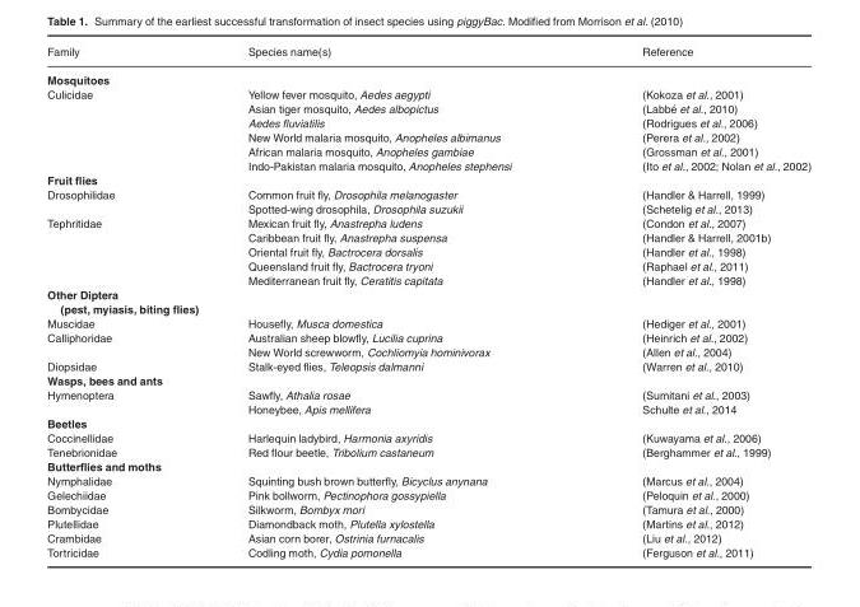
<table><thead><tr><td>Family</td><td>Species name(s)</td><td>Reference</td></tr></thead><tbody><tr><td colspan="3">Mosquitoes</td></tr><tr><td rowspan="6">Culicidae</td><td>Yellow fever mosquito, Aedes aegypti</td><td>(Kokoza et al., 2001)</td></tr><tr><td>Asian tiger mosquito, Aedes albopictus</td><td>(Labb�e et al., 2010)</td></tr><tr><td>Aedes fluviatilis</td><td>(Rodrigues et al., 2006)</td></tr><tr><td>New World malaria mosquito, Anopheles albimanus</td><td>(Perera et al., 2002)</td></tr><tr><td>African malaria mosquito, Anopheles gambiae</td><td>(Grossman et al., 2001)</td></tr><tr><td>Indo-Pakistan malaria mosquito, Anopheles stephensi</td><td>(Ito et al., 2002; Nolan et al., 2002)</td></tr><tr><td colspan="3">Fruit flies</td></tr><tr><td rowspan="2">Drosophilidae</td><td>Common fruit fly, Drosophila melanogaster</td><td>(Handler &amp; Harrell, 1999)</td></tr><tr><td>Spotted-wing drosophila, Drosophila suzukii</td><td>(Schetelig et al., 2013)</td></tr><tr><td rowspan="5">Tephritidae</td><td>Mexican fruit fly, Anastrepha ludens</td><td>(Condon et al., 2007)</td></tr><tr><td>Caribbean fruit fly, Anastrepha suspensa</td><td>(Handler &amp; Harrell, 2001b)</td></tr><tr><td>Oriental fruit fly, Bactrocera dorsalis</td><td>(Handler et al., 1998)</td></tr><tr><td>Queensland fruit fly, Bactrocera tryoni</td><td>(Raphael et al., 2011)</td></tr><tr><td>Mediterranean fruit fly, Ceratitis capitata</td><td>(Handler et al., 1998)</td></tr><tr><td colspan="3">Other Diptera (pest, myiasis, biting flies)</td></tr><tr><td>Muscidae</td><td>Housefly, Musca domestica</td><td>(Hediger et al., 2001)</td></tr><tr><td rowspan="2">Calliphoridae</td><td>Australian sheep blowfly, Lucilia cuprina</td><td>(Heinrich et al., 2002)</td></tr><tr><td>New World screwworm, Cochliomyia hominivorax</td><td>(Allen et al., 2004)</td></tr><tr><td>Diopsidae</td><td>Stalk-eyed flies, Teleopsis dalmanni</td><td>(Warren et al., 2010)</td></tr><tr><td colspan="3">Wasps, bees and ants</td></tr><tr><td rowspan="2">Hymenoptera</td><td>Sawfly, Athalia rosae</td><td>(Sumitani et al., 2003)</td></tr><tr><td>Honeybee, Apis mellifera</td><td>Schulte et al., 2014</td></tr><tr><td colspan="3">Beetles</td></tr><tr><td>Coccinellidae</td><td>Harlequin ladybird, Harmonia axyridis</td><td>(Kuwayama et al., 2006)</td></tr><tr><td>Tenebrionidae</td><td>Red flour beetle, Tribolium castaneum</td><td>(Berghammer et al., 1999)</td></tr><tr><td colspan="3">Butterflies and moths</td></tr><tr><td>Nymphalidae</td><td>Squinting bush brown butterfly, Bicyclus anynana</td><td>(Marcus et al., 2004)</td></tr><tr><td>Gelechiidae</td><td>Pink bollworm, Pectinophora gossypiella</td><td>(Peloquin et al., 2000)</td></tr><tr><td>Bombycidae</td><td>Silkworm, Bombyx mori</td><td>(Tamura et al., 2000)</td></tr><tr><td>Plutellidae</td><td>Diamondback moth, Plutella xylostella</td><td>(Martins et al., 2012)</td></tr><tr><td>Crambidae</td><td>Asian corn borer, Ostrinia furnacalis</td><td>(Liu et al., 2012)</td></tr><tr><td>Tortricidae</td><td>Codling moth, Cydia pomonella</td><td>(Ferguson et al., 2011)</td></tr></tbody></table>